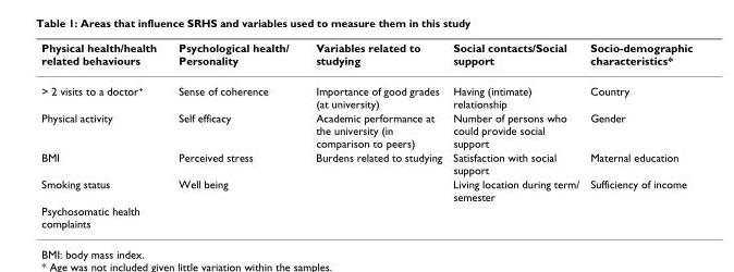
<table><thead><tr><td>Physical health/health related behaviours</td><td>Psychological health/ Personality</td><td>Variables related to studying</td><td>Social contacts/Social support</td><td>Socio-demographic characteristics*</td></tr></thead><tbody><tr><td>&gt; 2 visits to a doctor<sup>+</sup></td><td>Sense of coherence</td><td>Importance of good grades (at university)</td><td>Having (intimate) relationship</td><td>Country</td></tr><tr><td>Physical activity</td><td>Self efficacy</td><td>Academic performance at the university (in comparison to peers)</td><td>Number of persons who could provide social support</td><td>Gender</td></tr><tr><td>BMI</td><td>Perceived stress</td><td>Burdens related to studying</td><td>Satisfaction with social support</td><td>Maternal education</td></tr><tr><td>Smoking status</td><td>Well being</td><td></td><td>Living location during term/ semester</td><td>Sufficiency of income</td></tr><tr><td>Psychosomatic health complaints</td><td></td><td></td><td></td><td></td></tr></tbody></table>